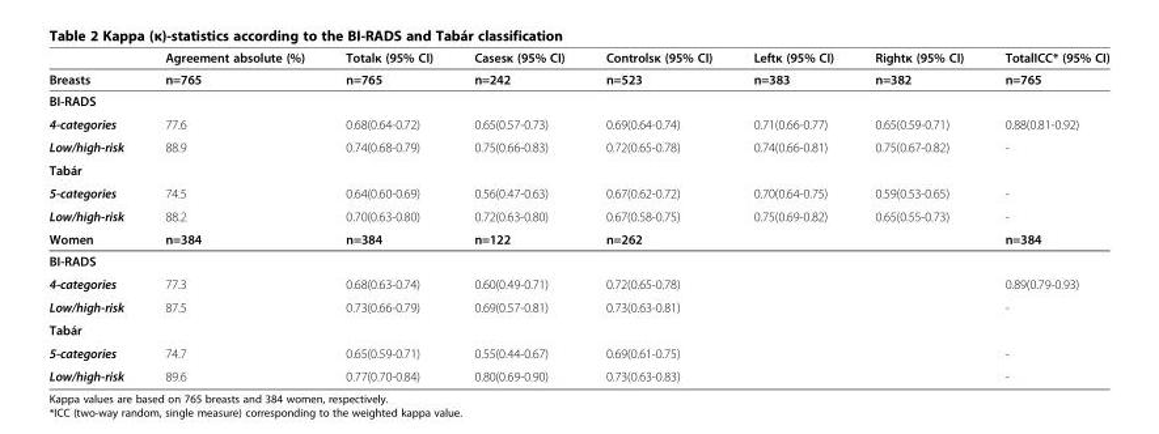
<table><thead><tr><td></td><td>Agreement absolute (%)</td><td>Totalκ (95% CI)</td><td>Casesκ (95% CI)</td><td>Controlsκ (95% CI)</td><td>Leftκ (95% CI)</td><td>Rightκ (95% CI)</td><td>TotalICC* (95% CI)</td></tr></thead><tbody><tr><td>Breasts</td><td>n=765</td><td>n=765</td><td>n=242</td><td>n=523</td><td>n=383</td><td>n=382</td><td>n=765</td></tr><tr><td colspan="8">BI-RADS</td></tr><tr><td>4-categories</td><td>77.6</td><td>0.68(0.64-0.72)</td><td>0.65(0.57-0.73)</td><td>0.69(0.64-0.74)</td><td>0.71(0.66-0.77)</td><td>0.65(0.59-0.71)</td><td>0.88(0.81-0.92)</td></tr><tr><td>Low/high-risk</td><td>88.9</td><td>0.74(0.68-0.79)</td><td>0.75(0.66-0.83)</td><td>0.72(0.65-0.78)</td><td>0.74(0.66-0.81)</td><td>0.75(0.67-0.82)</td><td>-</td></tr><tr><td colspan="8">Tabár</td></tr><tr><td>5-categories</td><td>74.5</td><td>0.64(0.60-0.69)</td><td>0.56(0.47-0.63)</td><td>0.67(0.62-0.72)</td><td>0.70(0.64-0.75)</td><td>0.59(0.53-0.65)</td><td>-</td></tr><tr><td>Low/high-risk</td><td>88.2</td><td>0.70(0.63-0.80)</td><td>0.72(0.63-0.80)</td><td>0.67(0.58-0.75)</td><td>0.75(0.69-0.82)</td><td>0.65(0.55-0.73)</td><td>-</td></tr><tr><td>Women</td><td>n=384</td><td>n=384</td><td>n=122</td><td>n=262</td><td></td><td></td><td>n=384</td></tr><tr><td colspan="8">BI-RADS</td></tr><tr><td>4-categories</td><td>77.3</td><td>0.68(0.63-0.74)</td><td>0.60(0.49-0.71)</td><td>0.72(0.65-0.78)</td><td></td><td></td><td>0.89(0.79-0.93)</td></tr><tr><td>Low/high-risk</td><td>87.5</td><td>0.73(0.66-0.79)</td><td>0.69(0.57-0.81)</td><td>0.73(0.63-0.81)</td><td></td><td></td><td>-</td></tr><tr><td colspan="8">Tabár</td></tr><tr><td>5-categories</td><td>74.7</td><td>0.65(0.59-0.71)</td><td>0.55(0.44-0.67)</td><td>0.69(0.61-0.75)</td><td></td><td></td><td>-</td></tr><tr><td>Low/high-risk</td><td>89.6</td><td>0.77(0.70-0.84)</td><td>0.80(0.69-0.90)</td><td>0.73(0.63-0.83)</td><td></td><td></td><td>-</td></tr></tbody></table>